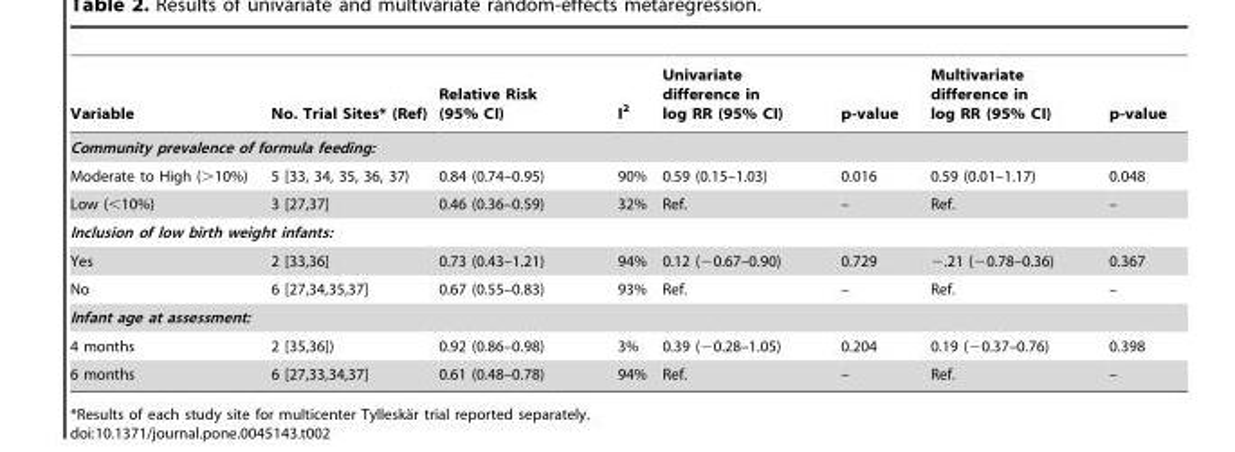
<table><thead><tr><td>Variable</td><td>No. Trial Sites* (Ref)</td><td>Relative Risk (95% CI)</td><td>I<sup>2</sup></td><td>Univariate difference in log RR (95% CI)</td><td>p-value</td><td>Multivariate difference in log RR (95% CI)</td><td>p-value</td></tr></thead><tbody><tr><td colspan="8">Community prevalence of formula feeding:</td></tr><tr><td>Moderate to High (&gt;10%)</td><td>5 [33, 34, 35, 36, 37)</td><td>0.84 (0.74–0.95)</td><td>90%</td><td>0.59 (0.15–1.03)</td><td>0.016</td><td>0.59 (0.01–1.17)</td><td>0.048</td></tr><tr><td>Low (&lt;10%)</td><td>3 [27,37]</td><td>0.46 (0.36–0.59)</td><td>32%</td><td>Ref.</td><td>–</td><td>Ref.</td><td>–</td></tr><tr><td colspan="8">Inclusion of low birth weight infants:</td></tr><tr><td>Yes</td><td>2 [33,36]</td><td>0.73 (0.43–1.21)</td><td>94%</td><td>0.12 (−0.67–0.90)</td><td>0.729</td><td>−.21 (−0.78–0.36)</td><td>0.367</td></tr><tr><td>No</td><td>6 [27,34,35,37]</td><td>0.67 (0.55–0.83)</td><td>93%</td><td>Ref.</td><td>–</td><td>Ref.</td><td>–</td></tr><tr><td colspan="8">Infant age at assessment:</td></tr><tr><td>4 months</td><td>2 [35,36])</td><td>0.92 (0.86–0.98)</td><td>3%</td><td>0.39 (−0.28–1.05)</td><td>0.204</td><td>0.19 (−0.37–0.76)</td><td>0.398</td></tr><tr><td>6 months</td><td>6 [27,33,34,37]</td><td>0.61 (0.48–0.78)</td><td>94%</td><td>Ref.</td><td>–</td><td>Ref.</td><td>–</td></tr></tbody></table>